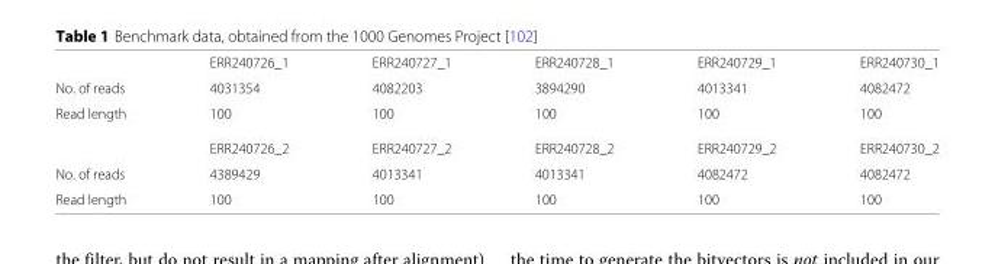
<table><thead><tr><td></td><td>ERR240726_1</td><td>ERR240727_1</td><td>ERR240728_1</td><td>ERR240729_1</td><td>ERR240730_1</td></tr></thead><tbody><tr><td>No. of reads</td><td>4031354</td><td>4082203</td><td>3894290</td><td>4013341</td><td>4082472</td></tr><tr><td rowspan="2">Read length</td><td>100</td><td>100</td><td>100</td><td>100</td><td>100</td></tr><tr><td>ERR240726_2</td><td>ERR240727_2</td><td>ERR240728_2</td><td>ERR240729_2</td><td>ERR240730_2</td></tr><tr><td>No. of reads</td><td>4389429</td><td>4013341</td><td>4013341</td><td>4082472</td><td>4082472</td></tr><tr><td>Read length</td><td>100</td><td>100</td><td>100</td><td>100</td><td>100</td></tr></tbody></table>